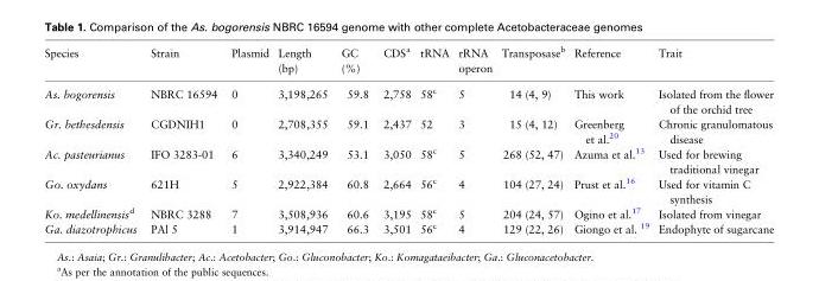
<table><thead><tr><td>Species</td><td>Strain</td><td>Plasmid</td><td>Length (bp)</td><td>GC (%)</td><td>CDS<sup>a</sup></td><td>tRNA</td><td>rRNA operon</td><td>Transposase<sup>b</sup></td><td>Reference</td><td>Trait</td></tr></thead><tbody><tr><td>As. bogorensis</td><td>NBRC 16594</td><td>0</td><td>3,198,265</td><td>59.8</td><td>2,758</td><td>58<sup>c</sup></td><td>5</td><td>14 (4, 9)</td><td>This work</td><td>Isolated from the flower of the orchid tree</td></tr><tr><td>Gr. bethesdensis</td><td>CGDNIH1</td><td>0</td><td>2,708,355</td><td>59.1</td><td>2,437</td><td>52</td><td>3</td><td>15 (4, 12)</td><td>Greenberg et al.<sup>20</sup></td><td>Chronic granulomatous disease</td></tr><tr><td>Ac. pasteurianus</td><td>IFO 3283-01</td><td>6</td><td>3,340,249</td><td>53.1</td><td>3,050</td><td>58<sup>c</sup></td><td>5</td><td>268 (52, 47)</td><td>Azuma et al.<sup>13</sup></td><td>Used for brewing traditional vinegar</td></tr><tr><td>Go. oxydans</td><td>621H</td><td>5</td><td>2,922,384</td><td>60.8</td><td>2,664</td><td>56<sup>c</sup></td><td>4</td><td>104 (27, 24)</td><td>Prust et al.<sup>16</sup></td><td>Used for vitamin C synthesis</td></tr><tr><td>Ko. medellinensis<sup>d</sup></td><td>NBRC 3288</td><td>7</td><td>3,508,936</td><td>60.6</td><td>3,195</td><td>58<sup>c</sup></td><td>5</td><td>204 (24, 57)</td><td>Ogino et al.<sup>17</sup></td><td>Isolated from vinegar</td></tr><tr><td>Ga. diazotrophicus</td><td>PAl 5</td><td>1</td><td>3,914,947</td><td>66.3</td><td>3,501</td><td>56<sup>c</sup></td><td>4</td><td>129 (22, 26)</td><td>Giongo et al. <sup>19</sup></td><td>Endophyte of sugarcane</td></tr></tbody></table>